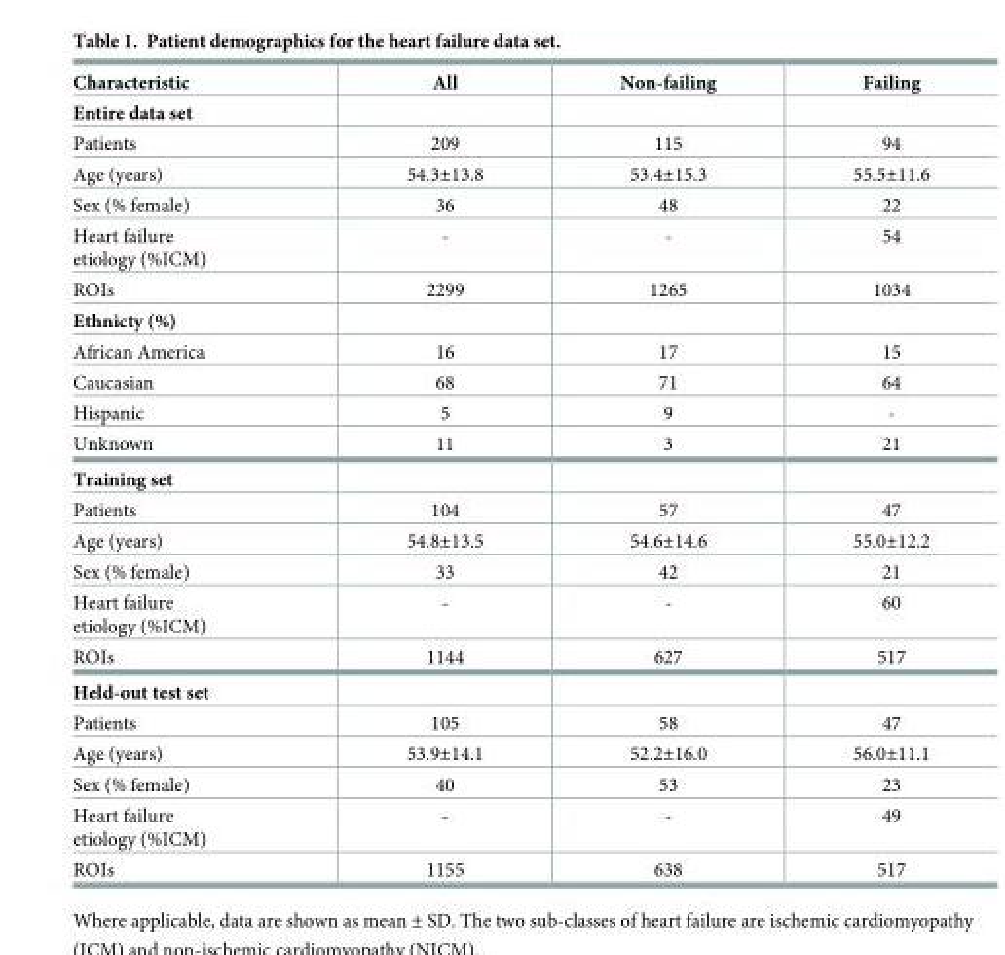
<table><thead><tr><td>Characteristic</td><td>All</td><td>Non-failing</td><td>Failing</td></tr></thead><tbody><tr><td colspan="4">Entire data set</td></tr><tr><td>Patients</td><td>209</td><td>115</td><td>94</td></tr><tr><td>Age (years)</td><td>54.3±13.8</td><td>53.4±15.3</td><td>55.5±11.6</td></tr><tr><td>Sex (% female)</td><td>36</td><td>48</td><td>22</td></tr><tr><td>Heart failure etiology (%ICM)</td><td>-</td><td>-</td><td>54</td></tr><tr><td>ROIs</td><td>2299</td><td>1265</td><td>1034</td></tr><tr><td colspan="4">Ethnicty (%)</td></tr><tr><td>African America</td><td>16</td><td>17</td><td>15</td></tr><tr><td>Caucasian</td><td>68</td><td>71</td><td>64</td></tr><tr><td>Hispanic</td><td>5</td><td>9</td><td>-</td></tr><tr><td>Unknown</td><td>11</td><td>3</td><td>21</td></tr><tr><td colspan="4">Training set</td></tr><tr><td>Patients</td><td>104</td><td>57</td><td>47</td></tr><tr><td>Age (years)</td><td>54.8±13.5</td><td>54.6±14.6</td><td>55.0±12.2</td></tr><tr><td>Sex (% female)</td><td>33</td><td>42</td><td>21</td></tr><tr><td>Heart failure etiology (%ICM)</td><td>-</td><td>-</td><td>60</td></tr><tr><td>ROIs</td><td>1144</td><td>627</td><td>517</td></tr><tr><td colspan="4">Held-out test set</td></tr><tr><td>Patients</td><td>105</td><td>58</td><td>47</td></tr><tr><td>Age (years)</td><td>53.9±14.1</td><td>52.2±16.0</td><td>56.0±11.1</td></tr><tr><td>Sex (% female)</td><td>40</td><td>53</td><td>23</td></tr><tr><td>Heart failure etiology (%ICM)</td><td>-</td><td>-</td><td>49</td></tr><tr><td>ROIs</td><td>1155</td><td>638</td><td>517</td></tr></tbody></table>